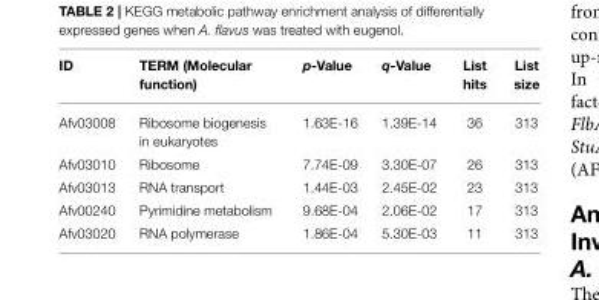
<table><thead><tr><td>ID</td><td>TERM (Molecular function)</td><td>p-Value</td><td>q-Value</td><td>List hits</td><td>List size</td></tr></thead><tbody><tr><td>Afv03008</td><td>Ribosome biogenesis in eukaryotes</td><td>1.63E-16</td><td>1.39E-14</td><td>36</td><td>313</td></tr><tr><td>Afv03010</td><td>Ribosome</td><td>7.74E-09</td><td>3.30E-07</td><td>26</td><td>313</td></tr><tr><td>Afv03013</td><td>RNA transport</td><td>1.44E-03</td><td>2.45E-02</td><td>23</td><td>313</td></tr><tr><td>Afv00240</td><td>Pyrimidine metabolism</td><td>9.68E-04</td><td>2.06E-02</td><td>17</td><td>313</td></tr><tr><td>Afv03020</td><td>RNA polymerase</td><td>1.86E-04</td><td>5.30E-03</td><td>11</td><td>313</td></tr></tbody></table>